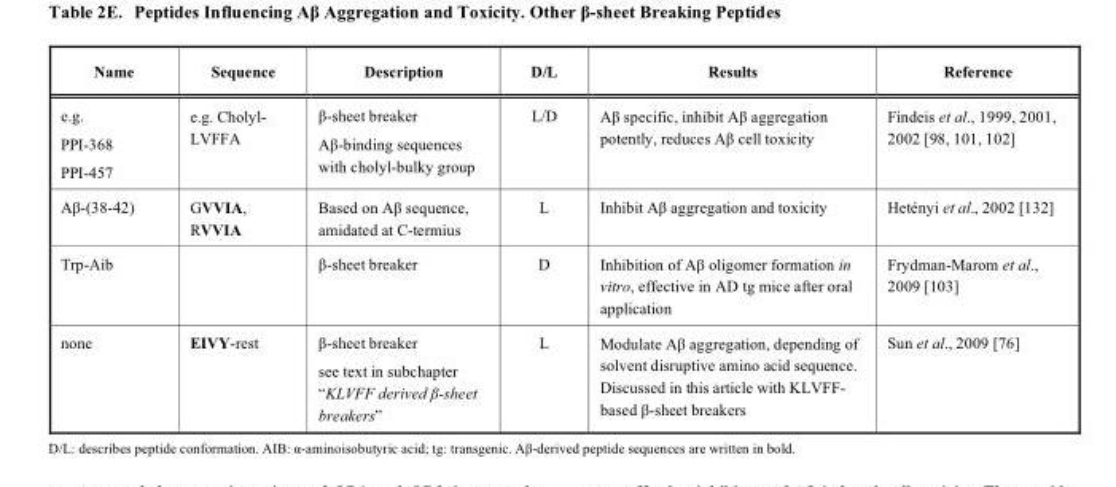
<table><thead><tr><td>Name</td><td>Sequence</td><td>Description</td><td>D/L</td><td>Results</td><td>Reference</td></tr></thead><tbody><tr><td>e.g. PPI-368 PPI-457</td><td>e.g. Cholyl- LVFFA</td><td>β-sheet breaker Aβ-binding sequences with cholyl-bulky group</td><td>L/D</td><td>Aβ specific, inhibit Aβ aggregation potently, reduces Aβ cell toxicity</td><td>Findeis et al., 1999, 2001, 2002 [98, 101, 102]</td></tr><tr><td>Aβ-(38-42)</td><td>GVVIA, RVVIA</td><td>Based on Aβ sequence, amidated at C-termius</td><td>L</td><td>Inhibit Aβ aggregation and toxicity</td><td>Hetényi et al., 2002 [132]</td></tr><tr><td>Trp-Aib</td><td></td><td>β-sheet breaker</td><td>D</td><td>Inhibition of Aβ oligomer formation in vitro, effective in AD tg mice after oral application</td><td>Frydman-Marom et al., 2009 [103]</td></tr><tr><td>none</td><td>EIVY-rest</td><td>β-sheet breaker see text in subchapter “KLVFF derived β-sheet breakers”</td><td>L</td><td>Modulate Aβ aggregation, depending of solvent disruptive amino acid sequence. Discussed in this article with KLVFF- based β-sheet breakers</td><td>Sun et al., 2009 [76]</td></tr></tbody></table>